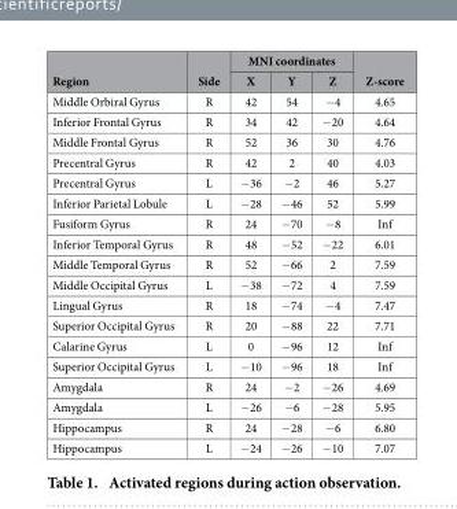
<table><thead><tr><td rowspan="2">Region</td><td rowspan="2">Side</td><td colspan="3">MNI coordinates</td><td rowspan="2">Z-score</td></tr><tr><td>X</td><td>Y</td><td>Z</td></tr></thead><tbody><tr><td>Middle Orbiral Gyrus</td><td>R</td><td>42</td><td>54</td><td>− 4</td><td>4.65</td></tr><tr><td>Inferior Frontal Gyrus</td><td>R</td><td>34</td><td>42</td><td>− 20</td><td>4.64</td></tr><tr><td>Middle Frontal Gyrus</td><td>R</td><td>52</td><td>36</td><td>30</td><td>4.76</td></tr><tr><td>Precentral Gyrus</td><td>R</td><td>42</td><td>2</td><td>40</td><td>4.03</td></tr><tr><td>Precentral Gyrus</td><td>L</td><td>− 36</td><td>− 2</td><td>46</td><td>5.27</td></tr><tr><td>Inferior Parietal Lobule</td><td>L</td><td>− 28</td><td>− 46</td><td>52</td><td>5.99</td></tr><tr><td>Fusiform Gyrus</td><td>R</td><td>24</td><td>− 70</td><td>− 8</td><td>Inf</td></tr><tr><td>Inferior Temporal Gyrus</td><td>R</td><td>48</td><td>− 52</td><td>− 22</td><td>6.01</td></tr><tr><td>Middle Temporal Gyrus</td><td>R</td><td>52</td><td>− 66</td><td>2</td><td>7.59</td></tr><tr><td>Middle Occipital Gyrus</td><td>L</td><td>− 38</td><td>− 72</td><td>4</td><td>7.59</td></tr><tr><td>Lingual Gyrus</td><td>R</td><td>18</td><td>− 74</td><td>− 4</td><td>7.47</td></tr><tr><td>Superior Occipital Gyrus</td><td>R</td><td>20</td><td>− 88</td><td>22</td><td>7.71</td></tr><tr><td>Calarine Gyrus</td><td>L</td><td>0</td><td>− 96</td><td>12</td><td>Inf</td></tr><tr><td>Superior Occipital Gyrus</td><td>L</td><td>− 10</td><td>− 96</td><td>18</td><td>Inf</td></tr><tr><td>Amygdala</td><td>R</td><td>24</td><td>− 2</td><td>− 26</td><td>4.69</td></tr><tr><td>Amygdala</td><td>L</td><td>− 26</td><td>− 6</td><td>− 28</td><td>5.95</td></tr><tr><td>Hippocampus</td><td>R</td><td>24</td><td>− 28</td><td>− 6</td><td>6.80</td></tr><tr><td>Hippocampus</td><td>L</td><td>− 24</td><td>− 26</td><td>− 10</td><td>7.07</td></tr></tbody></table>